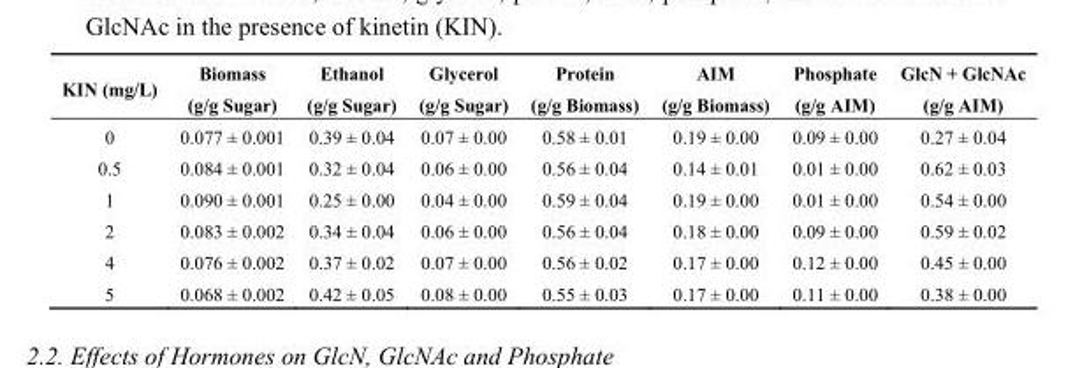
<table><thead><tr><td>KIN (mg/L)</td><td>Biomass (g/g Sugar)</td><td>Ethanol (g/g Sugar)</td><td>Glycerol (g/g Sugar)</td><td>Protein (g/g Biomass)</td><td>AIM (g/g Biomass)</td><td>Phosphate (g/g AIM)</td><td>GlcN + GlcNAc (g/g AIM)</td></tr></thead><tbody><tr><td>0</td><td>0.077 ± 0.001</td><td>0.39 ± 0.04</td><td>0.07 ± 0.00</td><td>0.58 ± 0.01</td><td>0.19 ± 0.00</td><td>0.09 ± 0.00</td><td>0.27 ± 0.04</td></tr><tr><td>0.5</td><td>0.084 ± 0.001</td><td>0.32 ± 0.04</td><td>0.06 ± 0.00</td><td>0.56 ± 0.04</td><td>0.14 ± 0.01</td><td>0.01 ± 0.00</td><td>0.62 ± 0.03</td></tr><tr><td>1</td><td>0.090 ± 0.001</td><td>0.25 ± 0.00</td><td>0.04 ± 0.00</td><td>0.59 ± 0.04</td><td>0.19 ± 0.00</td><td>0.01 ± 0.00</td><td>0.54 ± 0.00</td></tr><tr><td>2</td><td>0.083 ± 0.002</td><td>0.34 ± 0.04</td><td>0.06 ± 0.00</td><td>0.56 ± 0.04</td><td>0.18 ± 0.00</td><td>0.09 ± 0.00</td><td>0.59 ± 0.02</td></tr><tr><td>4</td><td>0.076 ± 0.002</td><td>0.37 ± 0.02</td><td>0.07 ± 0.00</td><td>0.56 ± 0.02</td><td>0.17 ± 0.00</td><td>0.12 ± 0.00</td><td>0.45 ± 0.00</td></tr><tr><td>5</td><td>0.068 ± 0.002</td><td>0.42 ± 0.05</td><td>0.08 ± 0.00</td><td>0.55 ± 0.03</td><td>0.17 ± 0.00</td><td>0.11 ± 0.00</td><td>0.38 ± 0.00</td></tr></tbody></table>